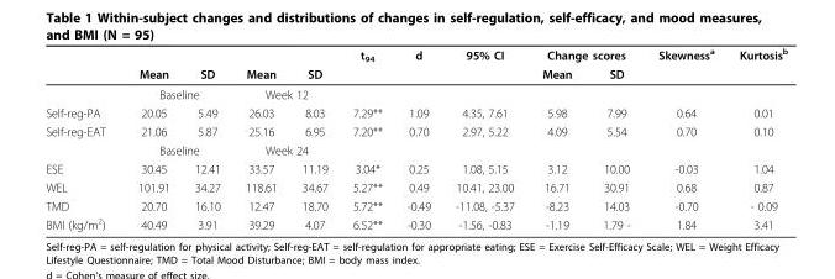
<table><thead><tr><td rowspan="2"></td><td rowspan="2">Mean</td><td rowspan="2">SD</td><td rowspan="2">Mean</td><td rowspan="2">SD</td><td rowspan="2">t<sub>94</sub></td><td rowspan="2">d</td><td rowspan="2">95% CI</td><td colspan="2">Change scores</td><td rowspan="2">Skewness<sup>a</sup></td><td rowspan="2">Kurtosis<sup>b</sup></td></tr><tr><td>Mean</td><td>SD</td></tr></thead><tbody><tr><td></td><td colspan="2">Baseline</td><td colspan="2">Week 12</td><td></td><td></td><td></td><td></td><td></td><td></td><td></td></tr><tr><td>Self-reg-PA</td><td>20.05</td><td>5.49</td><td>26.03</td><td>8.03</td><td>7.29**</td><td>1.09</td><td>4.35, 7.61</td><td>5.98</td><td>7.99</td><td>0.64</td><td>0.01</td></tr><tr><td rowspan="2">Self-reg-EAT</td><td>21.06</td><td>5.87</td><td>25.16</td><td>6.95</td><td>7.20**</td><td>0.70</td><td>2.97, 5.22</td><td>4.09</td><td>5.54</td><td>0.70</td><td>0.10</td></tr><tr><td colspan="2">Baseline</td><td colspan="2">Week 24</td><td></td><td></td><td></td><td></td><td></td><td></td><td></td></tr><tr><td>ESE</td><td>30.45</td><td>12.41</td><td>33.57</td><td>11.19</td><td>3.04*</td><td>0.25</td><td>1.08, 5.15</td><td>3.12</td><td>10.00</td><td>-0.03</td><td>1.04</td></tr><tr><td>WEL</td><td>101.91</td><td>34.27</td><td>118.61</td><td>34.67</td><td>5.27**</td><td>0.49</td><td>10.41, 23.00</td><td>16.71</td><td>30.91</td><td>0.68</td><td>0.87</td></tr><tr><td>TMD</td><td>20.70</td><td>16.10</td><td>12.47</td><td>18.70</td><td>5.72**</td><td>-0.49</td><td>-11.08, -5.37</td><td>-8.23</td><td>14.03</td><td>-0.70</td><td>- 0.09</td></tr><tr><td>BMI (kg/m<sup>2</sup>)</td><td>40.49</td><td>3.91</td><td>39.29</td><td>4.07</td><td>6.52**</td><td>-0.30</td><td>-1.56, -0.83</td><td>-1.19</td><td>1.79 -</td><td>1.84</td><td>3.41</td></tr></tbody></table>